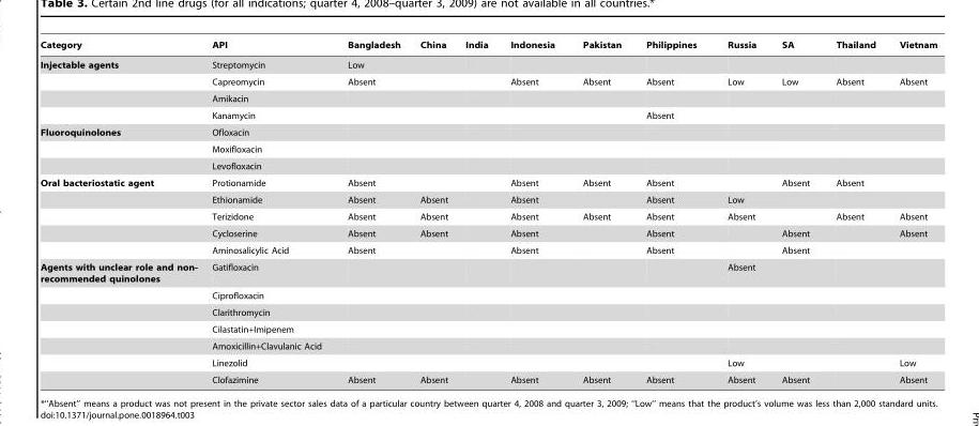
<table><thead><tr><td>Category</td><td>API</td><td>Bangladesh</td><td>China</td><td>India</td><td>Indonesia</td><td>Pakistan</td><td>Philippines</td><td>Russia</td><td>SA</td><td>Thailand</td><td>Vietnam</td></tr></thead><tbody><tr><td rowspan="4">Injectable agents</td><td>Streptomycin</td><td>Low</td><td></td><td></td><td></td><td></td><td></td><td></td><td></td><td></td><td></td></tr><tr><td>Capreomycin</td><td>Absent</td><td></td><td></td><td>Absent</td><td>Absent</td><td>Absent</td><td>Low</td><td>Low</td><td>Absent</td><td>Absent</td></tr><tr><td>Amikacin</td><td></td><td></td><td></td><td></td><td></td><td></td><td></td><td></td><td></td><td></td></tr><tr><td>Kanamycin</td><td></td><td></td><td></td><td></td><td></td><td>Absent</td><td></td><td></td><td></td><td></td></tr><tr><td rowspan="3">Fluoroquinolones</td><td>Ofloxacin</td><td></td><td></td><td></td><td></td><td></td><td></td><td></td><td></td><td></td><td></td></tr><tr><td>Moxifloxacin</td><td></td><td></td><td></td><td></td><td></td><td></td><td></td><td></td><td></td><td></td></tr><tr><td>Levofloxacin</td><td></td><td></td><td></td><td></td><td></td><td></td><td></td><td></td><td></td><td></td></tr><tr><td rowspan="5">Oral bacteriostatic agent</td><td>Protionamide</td><td>Absent</td><td></td><td></td><td>Absent</td><td>Absent</td><td>Absent</td><td></td><td>Absent</td><td>Absent</td><td></td></tr><tr><td>Ethionamide</td><td>Absent</td><td>Absent</td><td></td><td>Absent</td><td></td><td>Absent</td><td>Low</td><td></td><td></td><td></td></tr><tr><td>Terizidone</td><td>Absent</td><td>Absent</td><td></td><td>Absent</td><td>Absent</td><td>Absent</td><td>Absent</td><td></td><td>Absent</td><td>Absent</td></tr><tr><td>Cycloserine</td><td>Absent</td><td>Absent</td><td></td><td>Absent</td><td></td><td>Absent</td><td></td><td>Absent</td><td></td><td>Absent</td></tr><tr><td>Aminosalicylic Acid</td><td>Absent</td><td></td><td></td><td>Absent</td><td></td><td>Absent</td><td></td><td>Absent</td><td></td><td></td></tr><tr><td rowspan="7">Agents with unclear role and non- recommended quinolones</td><td>Gatifloxacin</td><td></td><td></td><td></td><td></td><td></td><td></td><td>Absent</td><td></td><td></td><td></td></tr><tr><td>Ciprofloxacin</td><td></td><td></td><td></td><td></td><td></td><td></td><td></td><td></td><td></td><td></td></tr><tr><td>Clarithromycin</td><td></td><td></td><td></td><td></td><td></td><td></td><td></td><td></td><td></td><td></td></tr><tr><td>Cilastatin+Imipenem</td><td></td><td></td><td></td><td></td><td></td><td></td><td></td><td></td><td></td><td></td></tr><tr><td>Amoxicillin+Clavulanic Acid</td><td></td><td></td><td></td><td></td><td></td><td></td><td></td><td></td><td></td><td></td></tr><tr><td>Linezolid</td><td></td><td></td><td></td><td></td><td></td><td></td><td>Low</td><td></td><td></td><td>Low</td></tr><tr><td>Clofazimine</td><td>Absent</td><td>Absent</td><td></td><td>Absent</td><td>Absent</td><td>Absent</td><td>Absent</td><td>Absent</td><td></td><td>Absent</td></tr></tbody></table>